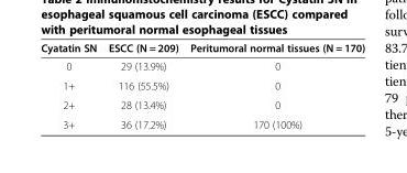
<table><thead><tr><td>Cyatatin SN</td><td>ESCC (N = 209)</td><td>Peritumoral normal tissues (N = 170)</td></tr></thead><tbody><tr><td>0</td><td>29 (13.9%)</td><td>0</td></tr><tr><td>1+</td><td>116 (55.5%)</td><td>0</td></tr><tr><td>2+</td><td>28 (13.4%)</td><td>0</td></tr><tr><td>3+</td><td>36 (17.2%)</td><td>170 (100%)</td></tr></tbody></table>